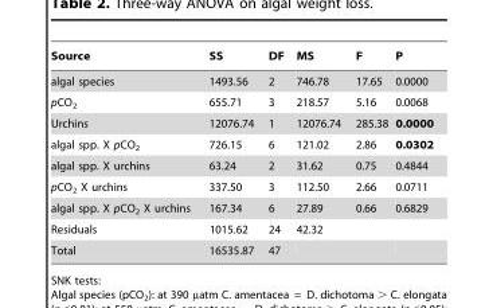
<table><thead><tr><td>Source</td><td>SS</td><td>DF</td><td>MS</td><td>F</td><td>P</td></tr></thead><tbody><tr><td>algal species</td><td>1493.56</td><td>2</td><td>746.78</td><td>17.65</td><td>0.0000</td></tr><tr><td>pCO<sub>2</sub></td><td>655.71</td><td>3</td><td>218.57</td><td>5.16</td><td>0.0068</td></tr><tr><td>Urchins</td><td>12076.74</td><td>1</td><td>12076.74</td><td>285.38</td><td>0.0000</td></tr><tr><td>algal spp. X pCO<sub>2</sub></td><td>726.15</td><td>6</td><td>121.02</td><td>2.86</td><td>0.0302</td></tr><tr><td>algal spp. X urchins</td><td>63.24</td><td>2</td><td>31.62</td><td>0.75</td><td>0.4844</td></tr><tr><td>pCO<sub>2</sub> X urchins</td><td>337.50</td><td>3</td><td>112.50</td><td>2.66</td><td>0.0711</td></tr><tr><td>algal spp. X pCO<sub>2</sub> X urchins</td><td>167.34</td><td>6</td><td>27.89</td><td>0.66</td><td>0.6829</td></tr><tr><td>Residuals</td><td>1015.62</td><td>24</td><td>42.32</td><td></td><td></td></tr><tr><td>Total</td><td>16535.87</td><td>47</td><td></td><td></td><td></td></tr></tbody></table>